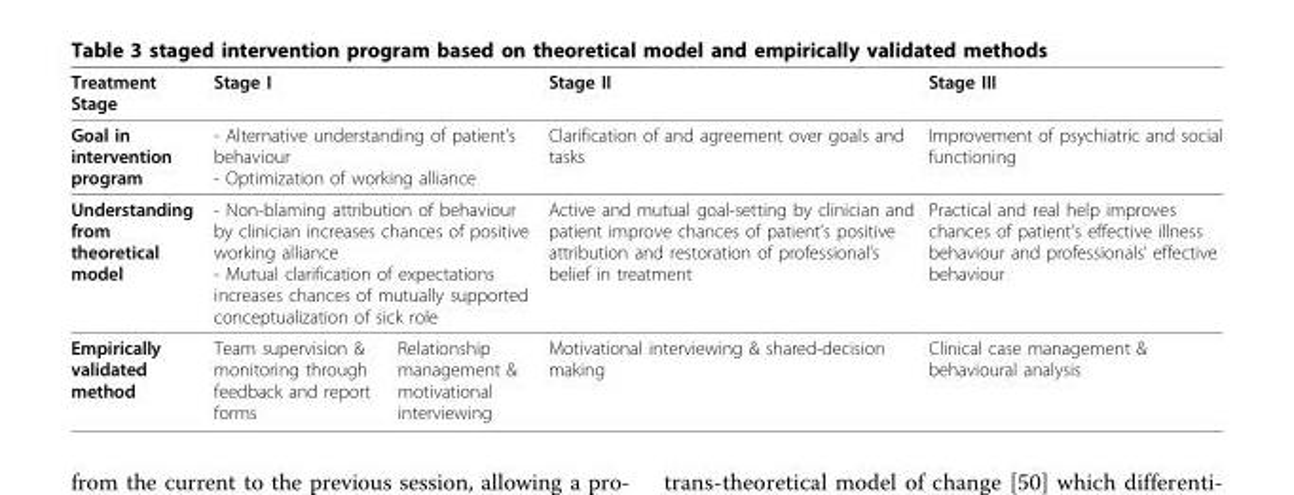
<table><thead><tr><td rowspan="4">Treatment Stage Goal in intervention program Understanding from theoretical model Empirically validated method</td><td rowspan="3" colspan="2">Stage I - Alternative understanding of patient’s behaviour - Optimization of working alliance - Non-blaming attribution of behaviour by clinician increases chances of positive working alliance - Mutual clarification of expectations increases chances of mutually supported conceptualization of sick role</td><td rowspan="4">Stage II Clarification of and agreement over goals and tasks Active and mutual goal-setting by clinician and patient improve chances of patient’s positive attribution and restoration of professional’s belief in treatment Motivational interviewing &amp; shared-decision making</td><td rowspan="4">Stage III Improvement of psychiatric and social functioning Practical and real help improves chances of patient’s effective illness behaviour and professionals’ effective behaviour Clinical case management &amp; behavioural analysis</td></tr><tr></tr><tr></tr><tr><td>Team supervision &amp; monitoring through feedback and report forms</td><td>Relationship management &amp; motivational interviewing</td></tr></thead><tbody></tbody></table>